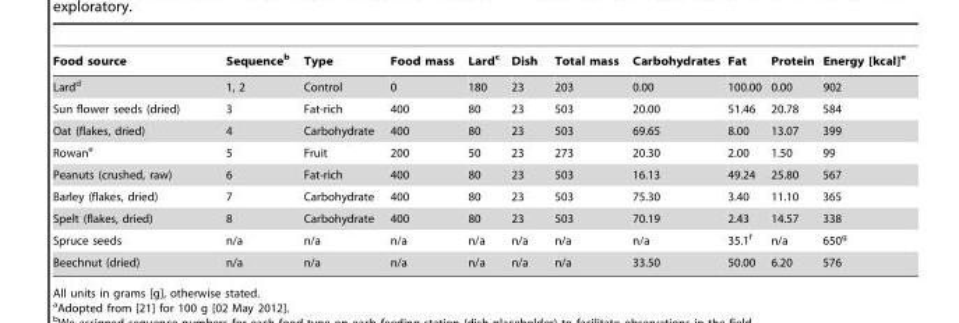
<table><thead><tr><td>Food source</td><td>Sequence<sup>b</sup></td><td>Type</td><td>Food mass</td><td>Lard<sup>c</sup></td><td>Dish</td><td>Total mass</td><td>Carbohydrates</td><td>Fat</td><td>Protein</td><td>Energy [kcal]<sup>e</sup></td></tr></thead><tbody><tr><td>Lard<sup>d</sup></td><td>1, 2</td><td>Control</td><td>0</td><td>180</td><td>23</td><td>203</td><td>0.00</td><td>100.00</td><td>0.00</td><td>902</td></tr><tr><td>Sun flower seeds (dried)</td><td>3</td><td>Fat-rich</td><td>400</td><td>80</td><td>23</td><td>503</td><td>20.00</td><td>51.46</td><td>20.78</td><td>584</td></tr><tr><td>Oat (flakes, dried)</td><td>4</td><td>Carbohydrate</td><td>400</td><td>80</td><td>23</td><td>503</td><td>69.65</td><td>8.00</td><td>13.07</td><td>399</td></tr><tr><td>Rowan<sup>e</sup></td><td>5</td><td>Fruit</td><td>200</td><td>50</td><td>23</td><td>273</td><td>20.30</td><td>2.00</td><td>1.50</td><td>99</td></tr><tr><td>Peanuts (crushed, raw)</td><td>6</td><td>Fat-rich</td><td>400</td><td>80</td><td>23</td><td>503</td><td>16.13</td><td>49.24</td><td>25.80</td><td>567</td></tr><tr><td>Barley (flakes, dried)</td><td>7</td><td>Carbohydrate</td><td>400</td><td>80</td><td>23</td><td>503</td><td>75.30</td><td>3.40</td><td>11.10</td><td>365</td></tr><tr><td>Spelt (flakes, dried)</td><td>8</td><td>Carbohydrate</td><td>400</td><td>80</td><td>23</td><td>503</td><td>70.19</td><td>2.43</td><td>14.57</td><td>338</td></tr><tr><td>Spruce seeds</td><td>n/a</td><td>n/a</td><td>n/a</td><td>n/a</td><td>n/a</td><td>n/a</td><td>n/a</td><td>35.1<sup>f</sup></td><td>n/a</td><td>650<sup>g</sup></td></tr><tr><td>Beechnut (dried)</td><td>n/a</td><td>n/a</td><td>n/a</td><td>n/a</td><td>n/a</td><td>n/a</td><td>33.50</td><td>50.00</td><td>6.20</td><td>576</td></tr></tbody></table>